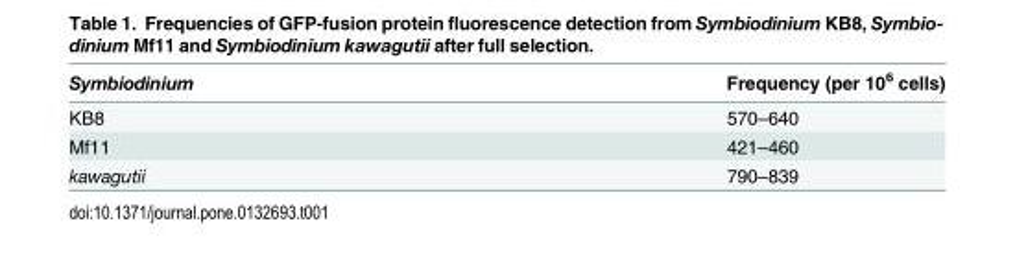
<table><thead><tr><td>Symbiodinium</td><td>Frequency (per 10<sup>6</sup> cells)</td></tr></thead><tbody><tr><td>KB8</td><td>570–640</td></tr><tr><td>Mf11</td><td>421–460</td></tr><tr><td>kawagutii</td><td>790–839</td></tr></tbody></table>